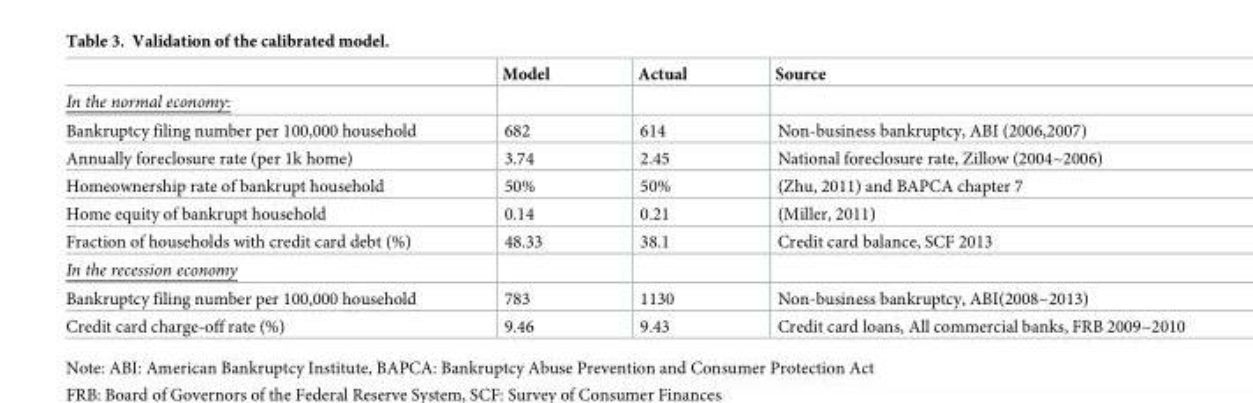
<table><thead><tr><td></td><td>Model</td><td>Actual</td><td>Source</td></tr></thead><tbody><tr><td colspan="4">In the normal economy:</td></tr><tr><td>Bankruptcy filing number per 100,000 household</td><td>682</td><td>614</td><td>Non-business bankruptcy, ABI (2006,2007)</td></tr><tr><td>Annually foreclosure rate (per 1k home)</td><td>3.74</td><td>2.45</td><td>National foreclosure rate, Zillow (2004~2006)</td></tr><tr><td>Homeownership rate of bankrupt household</td><td>50%</td><td>50%</td><td>(Zhu, 2011) and BAPCA chapter 7</td></tr><tr><td>Home equity of bankrupt household</td><td>0.14</td><td>0.21</td><td>(Miller, 2011)</td></tr><tr><td>Fraction of households with credit card debt (%)</td><td>48.33</td><td>38.1</td><td>Credit card balance, SCF 2013</td></tr><tr><td colspan="4">In the recession economy</td></tr><tr><td>Bankruptcy filing number per 100,000 household</td><td>783</td><td>1130</td><td>Non-business bankruptcy, ABI(2008~2013)</td></tr><tr><td>Credit card charge-off rate (%)</td><td>9.46</td><td>9.43</td><td>Credit card loans, All commercial banks, FRB 2009~2010</td></tr></tbody></table>